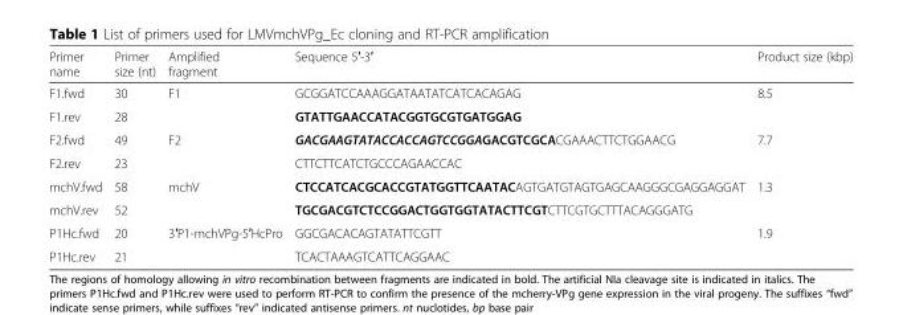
<table><thead><tr><td>Primer name</td><td>Primer size (nt)</td><td>Amplified fragment</td><td>Sequence 5′-3′</td><td>Product size (kbp)</td></tr></thead><tbody><tr><td>F1.fwd</td><td>30</td><td>F1</td><td>GCGGATCCAAAGGATAATATCATCACAGAG</td><td>8.5</td></tr><tr><td>F1.rev</td><td>28</td><td></td><td>GTATTGAACCATACGGTGCGTGATGGAG</td><td></td></tr><tr><td>F2.fwd</td><td>49</td><td>F2</td><td>GACGAAGTATACCACCAGTCCGGAGACGTCGCACGAAACTTCTGGAACG</td><td>7.7</td></tr><tr><td>F2.rev</td><td>23</td><td></td><td>CTTCTTCATCTGCCCAGAACCAC</td><td></td></tr><tr><td>mchV.fwd</td><td>58</td><td>mchV</td><td>CTCCATCACGCACCGTATGGTTCAATACAGTGATGTAGTGAGCAAGGGCGAGGAGGAT</td><td>1.3</td></tr><tr><td>mchV.rev</td><td>52</td><td></td><td>TGCGACGTCTCCGGACTGGTGGTATACTTCGTCTTCGTGCTTTACAGGGATG</td><td></td></tr><tr><td>P1Hc.fwd</td><td>20</td><td>3′P1-mchVPg-5′HcPro</td><td>GGCGACACAGTATATTCGTT</td><td>1.9</td></tr><tr><td>P1Hc.rev</td><td>21</td><td></td><td>TCACTAAAGTCATTCAGGAAC</td><td></td></tr></tbody></table>